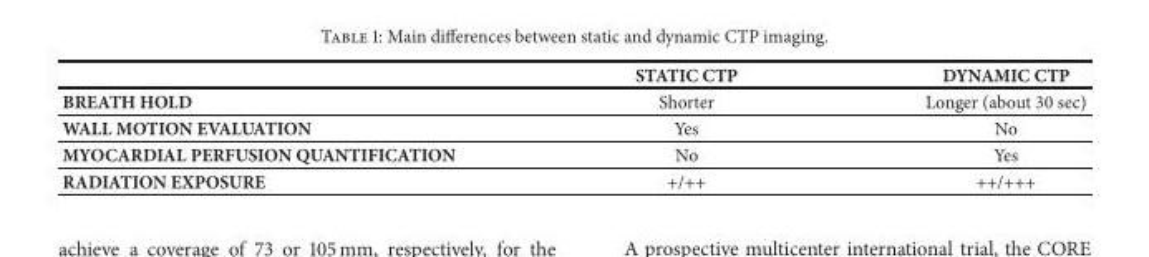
<table><thead><tr><td></td><td>STATIC CTP</td><td>DYNAMIC CTP</td></tr></thead><tbody><tr><td>BREATH HOLD</td><td>Shorter</td><td>Longer (about 30 sec)</td></tr><tr><td>WALL MOTION EVALUATION</td><td>Yes</td><td>No</td></tr><tr><td>MYOCARDIAL PERFUSION QUANTIFICATION</td><td>No</td><td>Yes</td></tr><tr><td>RADIATION EXPOSURE</td><td>+/++</td><td>++/+++</td></tr></tbody></table>